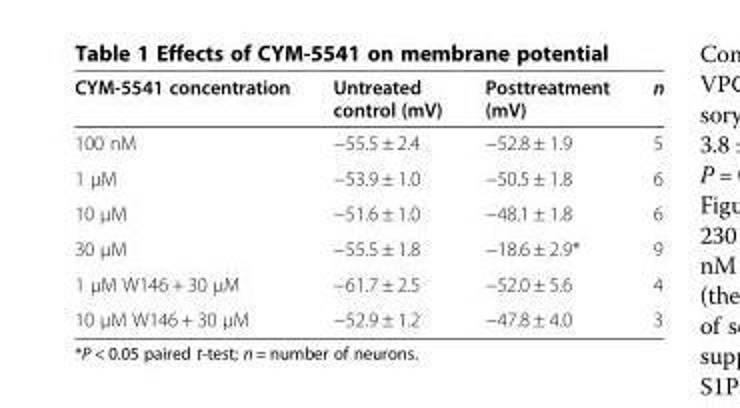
<table><thead><tr><td>CYM-5541 concentration</td><td>Untreated control (mV)</td><td>Posttreatment (mV)</td><td>n</td></tr></thead><tbody><tr><td>100 nM</td><td>−55.5 ± 2.4</td><td>−52.8 ± 1.9</td><td>5</td></tr><tr><td>1 μM</td><td>−53.9 ± 1.0</td><td>−50.5 ± 1.8</td><td>6</td></tr><tr><td>10 μM</td><td>−51.6 ± 1.0</td><td>−48.1 ± 1.8</td><td>6</td></tr><tr><td>30 μM</td><td>−55.5 ± 1.8</td><td>−18.6 ± 2.9*</td><td>9</td></tr><tr><td>1 μM W146 + 30 μM</td><td>−61.7 ± 2.5</td><td>−52.0 ± 5.6</td><td>4</td></tr><tr><td>10 μM W146 + 30 μM</td><td>−52.9 ± 1.2</td><td>−47.8 ± 4.0</td><td>3</td></tr></tbody></table>